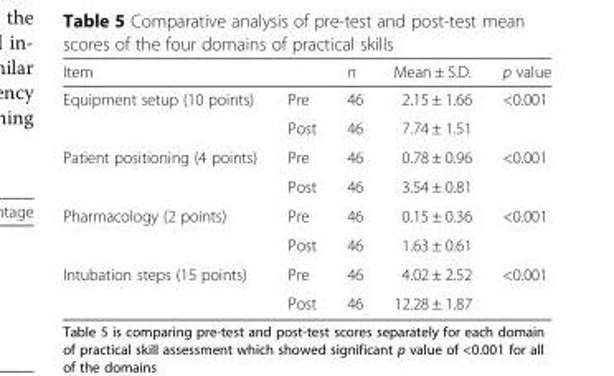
<table><thead><tr><td>Item</td><td></td><td>n</td><td>Mean ± S.D.</td><td>p value</td></tr></thead><tbody><tr><td rowspan="2">Equipment setup (10 points)</td><td>Pre</td><td>46</td><td>2.15 ± 1.66</td><td rowspan="2">&lt;0.001</td></tr><tr><td>Post</td><td>46</td><td>7.74 ± 1.51</td></tr><tr><td rowspan="2">Patient positioning (4 points)</td><td>Pre</td><td>46</td><td>0.78 ± 0.96</td><td rowspan="2">&lt;0.001</td></tr><tr><td>Post</td><td>46</td><td>3.54 ± 0.81</td></tr><tr><td rowspan="2">Pharmacology (2 points)</td><td>Pre</td><td>46</td><td>0.15 ± 0.36</td><td rowspan="2">&lt;0.001</td></tr><tr><td>Post</td><td>46</td><td>1.63 ± 0.61</td></tr><tr><td rowspan="2">Intubation steps (15 points)</td><td>Pre</td><td>46</td><td>4.02 ± 2.52</td><td rowspan="2">&lt;0.001</td></tr><tr><td>Post</td><td>46</td><td>12.28 ± 1.87</td></tr></tbody></table>